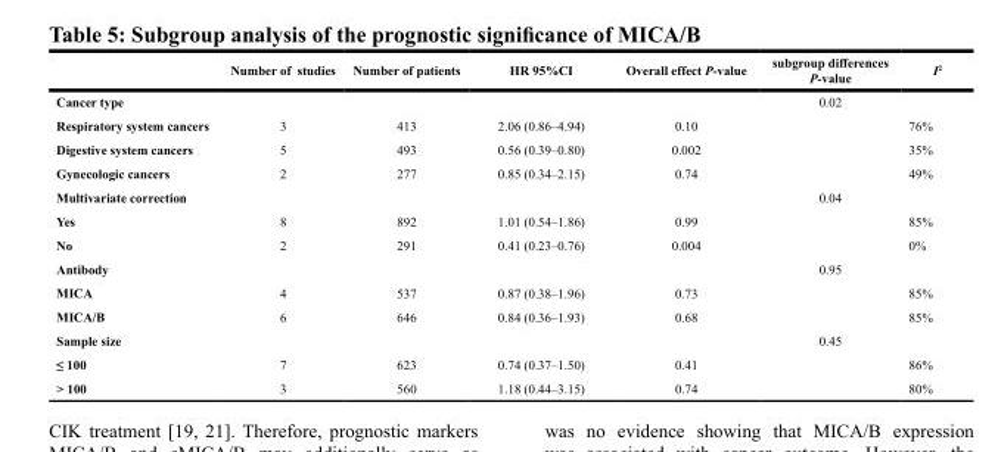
<table><thead><tr><td></td><td>Number of studies</td><td>Number of patients</td><td>HR 95%CI</td><td>Overall effect P-value</td><td>subgroup differences P-value</td><td>I<sup>2</sup></td></tr></thead><tbody><tr><td>Cancer type</td><td></td><td></td><td></td><td></td><td>0.02</td><td></td></tr><tr><td>Respiratory system cancers</td><td>3</td><td>413</td><td>2.06 (0.86–4.94)</td><td>0.10</td><td></td><td>76%</td></tr><tr><td>Digestive system cancers</td><td>5</td><td>493</td><td>0.56 (0.39–0.80)</td><td>0.002</td><td></td><td>35%</td></tr><tr><td>Gynecologic cancers</td><td>2</td><td>277</td><td>0.85 (0.34–2.15)</td><td>0.74</td><td></td><td>49%</td></tr><tr><td>Multivariate correction</td><td></td><td></td><td></td><td></td><td>0.04</td><td></td></tr><tr><td>Yes</td><td>8</td><td>892</td><td>1.01 (0.54–1.86)</td><td>0.99</td><td></td><td>85%</td></tr><tr><td>No</td><td>2</td><td>291</td><td>0.41 (0.23–0.76)</td><td>0.004</td><td></td><td>0%</td></tr><tr><td>Antibody</td><td></td><td></td><td></td><td></td><td>0.95</td><td></td></tr><tr><td>MICA</td><td>4</td><td>537</td><td>0.87 (0.38–1.96)</td><td>0.73</td><td></td><td>85%</td></tr><tr><td>MICA/B</td><td>6</td><td>646</td><td>0.84 (0.36–1.93)</td><td>0.68</td><td></td><td>85%</td></tr><tr><td>Sample size</td><td></td><td></td><td></td><td></td><td>0.45</td><td></td></tr><tr><td>≤ 100</td><td>7</td><td>623</td><td>0.74 (0.37–1.50)</td><td>0.41</td><td></td><td>86%</td></tr><tr><td>&gt; 100</td><td>3</td><td>560</td><td>1.18 (0.44–3.15)</td><td>0.74</td><td></td><td>80%</td></tr></tbody></table>